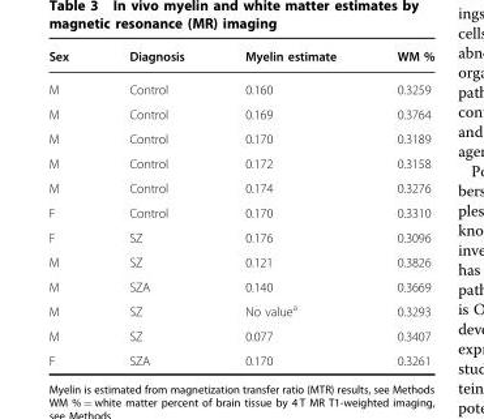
<table><thead><tr><td>Sex</td><td>Diagnosis</td><td>Myelin estimate</td><td>WM %</td></tr></thead><tbody><tr><td>M</td><td>Control</td><td>0.160</td><td>0.3259</td></tr><tr><td>M</td><td>Control</td><td>0.169</td><td>0.3764</td></tr><tr><td>M</td><td>Control</td><td>0.170</td><td>0.3189</td></tr><tr><td>M</td><td>Control</td><td>0.172</td><td>0.3158</td></tr><tr><td>M</td><td>Control</td><td>0.174</td><td>0.3276</td></tr><tr><td>F</td><td>Control</td><td>0.170</td><td>0.3310</td></tr><tr><td>F</td><td>SZ</td><td>0.176</td><td>0.3096</td></tr><tr><td>M</td><td>SZ</td><td>0.121</td><td>0.3826</td></tr><tr><td>M</td><td>SZA</td><td>0.140</td><td>0.3669</td></tr><tr><td>M</td><td>SZ</td><td>No value<sup>a</sup></td><td>0.3293</td></tr><tr><td>M</td><td>SZ</td><td>0.077</td><td>0.3407</td></tr><tr><td>F</td><td>SZA</td><td>0.170</td><td>0.3261</td></tr></tbody></table>